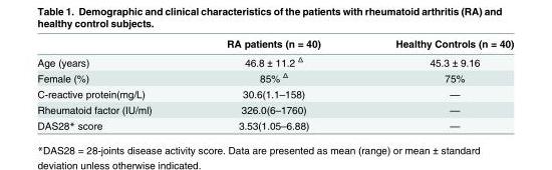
<table><thead><tr><td></td><td>RA patients (n = 40)</td><td>Healthy Controls (n = 40)</td></tr></thead><tbody><tr><td>Age (years)</td><td>46.8 ± 11.2 <sup>Δ</sup></td><td>45.3 ± 9.16</td></tr><tr><td>Female (%)</td><td>85% <sup>Δ</sup></td><td>75%</td></tr><tr><td>C-reactive protein(mg/L)</td><td>30.6(1.1–158)</td><td>—</td></tr><tr><td>Rheumatoid factor (IU/ml)</td><td>326.0(6–1760)</td><td>—</td></tr><tr><td>DAS28* score</td><td>3.53(1.05–6.88)</td><td>—</td></tr></tbody></table>